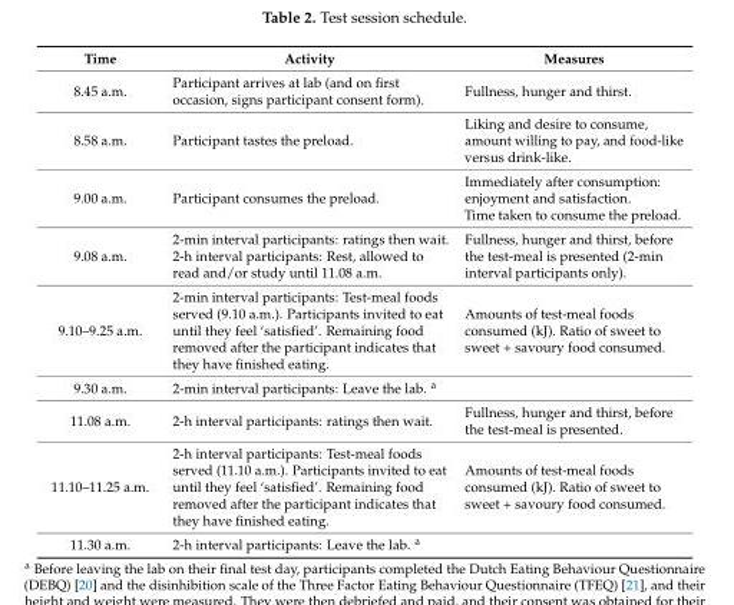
<table><thead><tr><td>Time</td><td>Activity</td><td>Measures</td></tr></thead><tbody><tr><td>8.45 a.m.</td><td>Participant arrives at lab (and on first occasion, signs participant consent form).</td><td>Fullness, hunger and thirst.</td></tr><tr><td>8.58 a.m.</td><td>Participant tastes the preload.</td><td>Liking and desire to consume, amount willing to pay, and food-like versus drink-like.</td></tr><tr><td>9.00 a.m.</td><td>Participant consumes the preload.</td><td>Immediately after consumption: enjoyment and satisfaction. Time taken to consume the preload.</td></tr><tr><td>9.08 a.m.</td><td>2-min interval participants: ratings then wait. 2-h interval participants: Rest, allowed to read and/or study until 11.08 a.m.</td><td>Fullness, hunger and thirst, before the test-meal is presented (2-min interval participants only).</td></tr><tr><td>9.10–9.25 a.m.</td><td>2-min interval participants: Test-meal foods served (9.10 a.m.). Participants invited to eat until they feel ‘satisfied’. Remaining food removed after the participant indicates that they have finished eating.</td><td>Amounts of test-meal foods consumed (kJ). Ratio of sweet to sweet + savoury food consumed.</td></tr><tr><td>9.30 a.m.</td><td>2-min interval participants: Leave the lab. <sup>a</sup></td><td></td></tr><tr><td>11.08 a.m.</td><td>2-h interval participants: ratings then wait.</td><td>Fullness, hunger and thirst, before the test-meal is presented.</td></tr><tr><td>11.10–11.25 a.m.</td><td>2-h interval participants: Test-meal foods served (11.10 a.m.). Participants invited to eat until they feel ‘satisfied’. Remaining food removed after the participant indicates that they have finished eating.</td><td>Amounts of test-meal foods consumed (kJ). Ratio of sweet to sweet + savoury food consumed.</td></tr><tr><td>11.30 a.m.</td><td>2-h interval participants: Leave the lab. <sup>a</sup></td><td></td></tr></tbody></table>